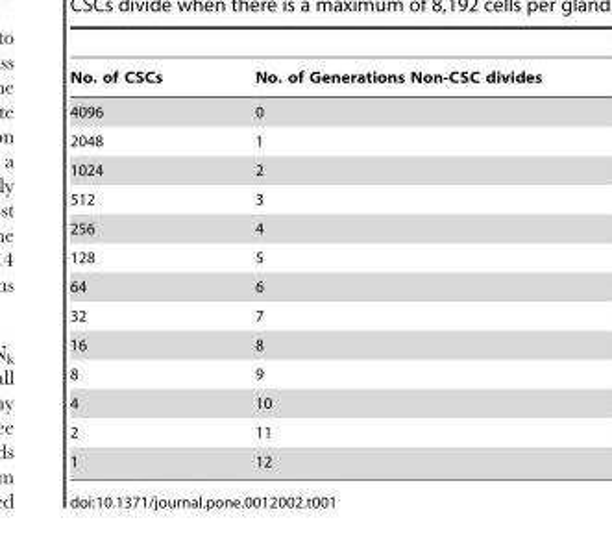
<table><thead><tr><td>No. of CSCs</td><td>No. of Generations Non-CSC divides</td></tr></thead><tbody><tr><td>4096</td><td>0</td></tr><tr><td>2048</td><td>1</td></tr><tr><td>1024</td><td>2</td></tr><tr><td>512</td><td>3</td></tr><tr><td>256</td><td>4</td></tr><tr><td>128</td><td>5</td></tr><tr><td>64</td><td>6</td></tr><tr><td>32</td><td>7</td></tr><tr><td>16</td><td>8</td></tr><tr><td>8</td><td>9</td></tr><tr><td>4</td><td>10</td></tr><tr><td>2</td><td>11</td></tr><tr><td>1</td><td>12</td></tr></tbody></table>